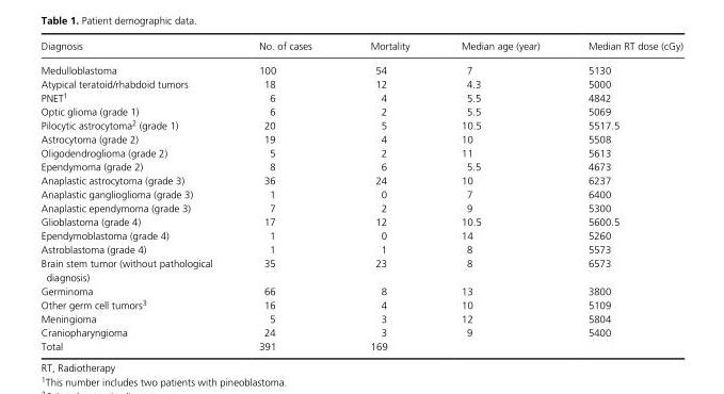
<table><thead><tr><td>Diagnosis</td><td>No. of cases</td><td>Mortality</td><td>Median age (year)</td><td>Median RT dose (cGy)</td></tr></thead><tbody><tr><td>Medulloblastoma</td><td>100</td><td>54</td><td>7</td><td>5130</td></tr><tr><td>Atypical teratoid/rhabdoid tumors</td><td>18</td><td>12</td><td>4.3</td><td>5000</td></tr><tr><td>PNET1</td><td>6</td><td>4</td><td>5.5</td><td>4842</td></tr><tr><td>Optic glioma (grade 1)</td><td>6</td><td>2</td><td>5.5</td><td>5069</td></tr><tr><td>Pilocytic astrocytoma2 (grade 1)</td><td>20</td><td>5</td><td>10.5</td><td>5517.5</td></tr><tr><td>Astrocytoma (grade 2)</td><td>19</td><td>4</td><td>10</td><td>5508</td></tr><tr><td>Oligodendroglioma (grade 2)</td><td>5</td><td>2</td><td>11</td><td>5613</td></tr><tr><td>Ependymoma (grade 2)</td><td>8</td><td>6</td><td>5.5</td><td>4673</td></tr><tr><td>Anaplastic astrocytoma (grade 3)</td><td>36</td><td>24</td><td>10</td><td>6237</td></tr><tr><td>Anaplastic ganglioglioma (grade 3)</td><td>1</td><td>0</td><td>7</td><td>6400</td></tr><tr><td>Anaplastic ependymoma (grade 3)</td><td>7</td><td>2</td><td>9</td><td>5300</td></tr><tr><td>Glioblastoma (grade 4)</td><td>17</td><td>12</td><td>10.5</td><td>5600.5</td></tr><tr><td>Ependymoblastoma (grade 4)</td><td>1</td><td>0</td><td>14</td><td>5260</td></tr><tr><td>Astroblastoma (grade 4)</td><td>1</td><td>1</td><td>8</td><td>5573</td></tr><tr><td>Brain stem tumor (without pathological diagnosis)</td><td>35</td><td>23</td><td>8</td><td>6573</td></tr><tr><td>Germinoma</td><td>66</td><td>8</td><td>13</td><td>3800</td></tr><tr><td>Other germ cell tumors3</td><td>16</td><td>4</td><td>10</td><td>5109</td></tr><tr><td>Meningioma</td><td>5</td><td>3</td><td>12</td><td>5804</td></tr><tr><td>Craniopharyngioma</td><td>24</td><td>3</td><td>9</td><td>5400</td></tr><tr><td>Total</td><td>391</td><td>169</td><td></td><td></td></tr></tbody></table>